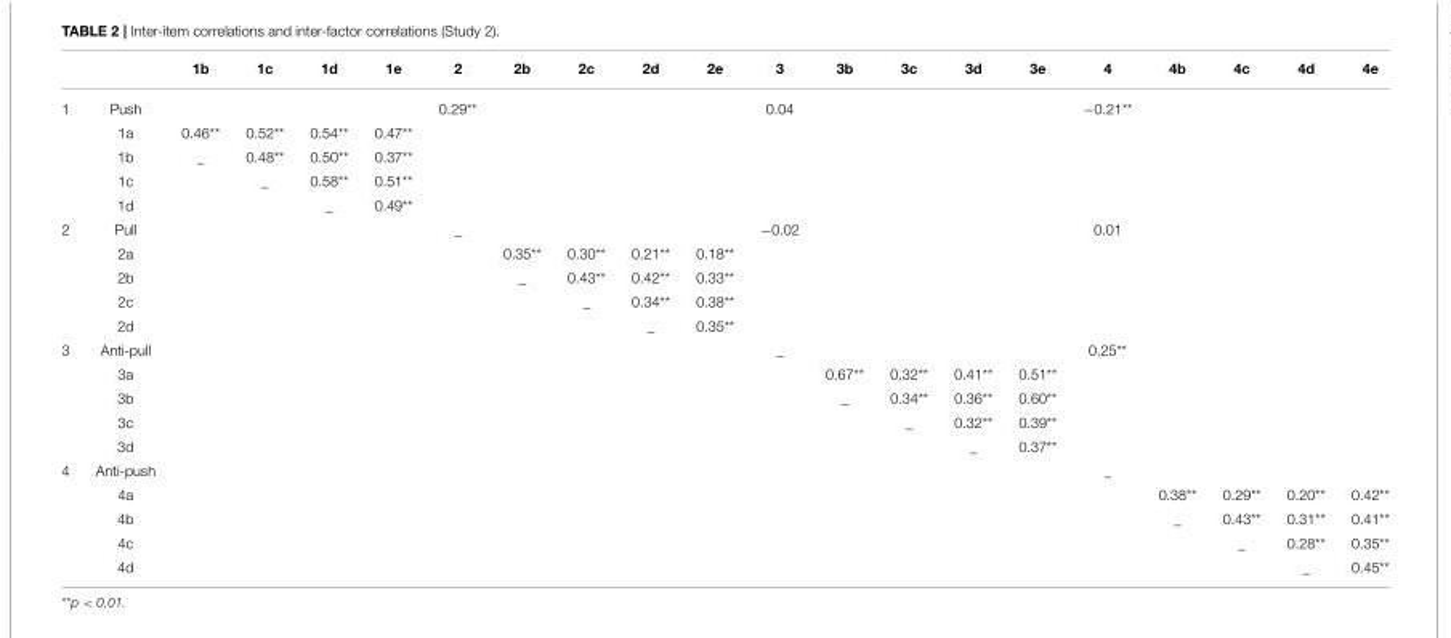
<table><thead><tr><td></td><td></td><td>1b</td><td>1c</td><td>1d</td><td>1e</td><td>2</td><td>2b</td><td>2c</td><td>2d</td><td>2e</td><td>3</td><td>3b</td><td>3c</td><td>3d</td><td>3e</td><td>4</td><td>4b</td><td>4c</td><td>4d</td><td>4e</td></tr></thead><tbody><tr><td rowspan="5">1</td><td>Push</td><td></td><td></td><td></td><td></td><td>0.29**</td><td></td><td></td><td></td><td></td><td>0.04</td><td></td><td></td><td></td><td></td><td>−0.21**</td><td></td><td></td><td></td><td></td></tr><tr><td>1a</td><td>0.46**</td><td>0.52**</td><td>0.54**</td><td>0.47**</td><td></td><td></td><td></td><td></td><td></td><td></td><td></td><td></td><td></td><td></td><td></td><td></td><td></td><td></td><td></td></tr><tr><td>1b</td><td>_</td><td>0.48**</td><td>0.50**</td><td>0.37**</td><td></td><td></td><td></td><td></td><td></td><td></td><td></td><td></td><td></td><td></td><td></td><td></td><td></td><td></td><td></td></tr><tr><td>1c</td><td></td><td>_</td><td>0.58**</td><td>0.51**</td><td></td><td></td><td></td><td></td><td></td><td></td><td></td><td></td><td></td><td></td><td></td><td></td><td></td><td></td><td></td></tr><tr><td>1d</td><td></td><td></td><td>_</td><td>0.49**</td><td></td><td></td><td></td><td></td><td></td><td></td><td></td><td></td><td></td><td></td><td></td><td></td><td></td><td></td><td></td></tr><tr><td rowspan="5">2</td><td>Pull</td><td></td><td></td><td></td><td></td><td>_</td><td></td><td></td><td></td><td></td><td>−0.02</td><td></td><td></td><td></td><td></td><td>0.01</td><td></td><td></td><td></td><td></td></tr><tr><td>2a</td><td></td><td></td><td></td><td></td><td></td><td>0.35**</td><td>0.30**</td><td>0.21**</td><td>0.18**</td><td></td><td></td><td></td><td></td><td></td><td></td><td></td><td></td><td></td><td></td></tr><tr><td>2b</td><td></td><td></td><td></td><td></td><td></td><td>_</td><td>0.43**</td><td>0.42**</td><td>0.33**</td><td></td><td></td><td></td><td></td><td></td><td></td><td></td><td></td><td></td><td></td></tr><tr><td>2c</td><td></td><td></td><td></td><td></td><td></td><td></td><td>_</td><td>0.34**</td><td>0.38**</td><td></td><td></td><td></td><td></td><td></td><td></td><td></td><td></td><td></td><td></td></tr><tr><td>2d</td><td></td><td></td><td></td><td></td><td></td><td></td><td></td><td>_</td><td>0.35**</td><td></td><td></td><td></td><td></td><td></td><td></td><td></td><td></td><td></td><td></td></tr><tr><td rowspan="5">3</td><td>Anti-pull</td><td></td><td></td><td></td><td></td><td></td><td></td><td></td><td></td><td></td><td>_</td><td></td><td></td><td></td><td></td><td>0.25**</td><td></td><td></td><td></td><td></td></tr><tr><td>3a</td><td></td><td></td><td></td><td></td><td></td><td></td><td></td><td></td><td></td><td></td><td>0.67**</td><td>0.32**</td><td>0.41**</td><td>0.51**</td><td></td><td></td><td></td><td></td><td></td></tr><tr><td>3b</td><td></td><td></td><td></td><td></td><td></td><td></td><td></td><td></td><td></td><td></td><td>_</td><td>0.34**</td><td>0.36**</td><td>0.60**</td><td></td><td></td><td></td><td></td><td></td></tr><tr><td>3c</td><td></td><td></td><td></td><td></td><td></td><td></td><td></td><td></td><td></td><td></td><td></td><td>_</td><td>0.32**</td><td>0.39**</td><td></td><td></td><td></td><td></td><td></td></tr><tr><td>3d</td><td></td><td></td><td></td><td></td><td></td><td></td><td></td><td></td><td></td><td></td><td></td><td></td><td>_</td><td>0.37**</td><td></td><td></td><td></td><td></td><td></td></tr><tr><td rowspan="5">4</td><td>Anti-push</td><td></td><td></td><td></td><td></td><td></td><td></td><td></td><td></td><td></td><td></td><td></td><td></td><td></td><td></td><td>_</td><td></td><td></td><td></td><td></td></tr><tr><td>4a</td><td></td><td></td><td></td><td></td><td></td><td></td><td></td><td></td><td></td><td></td><td></td><td></td><td></td><td></td><td></td><td>0.38**</td><td>0.29**</td><td>0.20**</td><td>0.42**</td></tr><tr><td>4b</td><td></td><td></td><td></td><td></td><td></td><td></td><td></td><td></td><td></td><td></td><td></td><td></td><td></td><td></td><td></td><td>_</td><td>0.43**</td><td>0.31**</td><td>0.41**</td></tr><tr><td>4c</td><td></td><td></td><td></td><td></td><td></td><td></td><td></td><td></td><td></td><td></td><td></td><td></td><td></td><td></td><td></td><td></td><td>_</td><td>0.28**</td><td>0.35**</td></tr><tr><td>4d</td><td></td><td></td><td></td><td></td><td></td><td></td><td></td><td></td><td></td><td></td><td></td><td></td><td></td><td></td><td></td><td></td><td></td><td>_</td><td>0.45**</td></tr></tbody></table>